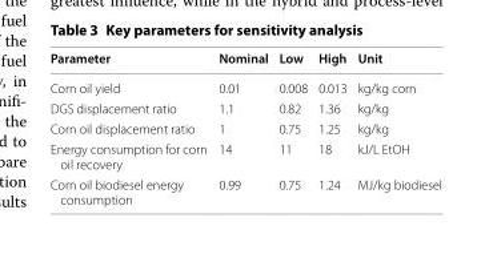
<table><thead><tr><td>Parameter</td><td>Nominal</td><td>Low</td><td>High</td><td>Unit</td></tr></thead><tbody><tr><td>Corn oil yield</td><td>0.01</td><td>0.008</td><td>0.013</td><td>kg/kg corn</td></tr><tr><td>DGS displacement ratio</td><td>1.1</td><td>0.82</td><td>1.36</td><td>kg/kg</td></tr><tr><td>Corn oil displacement ratio</td><td>1</td><td>0.75</td><td>1.25</td><td>kg/kg</td></tr><tr><td>Energy consumption for corn oil recovery</td><td>14</td><td>11</td><td>18</td><td>kJ/L EtOH</td></tr><tr><td>Corn oil biodiesel energy consumption</td><td>0.99</td><td>0.75</td><td>1.24</td><td>MJ/kg biodiesel</td></tr></tbody></table>